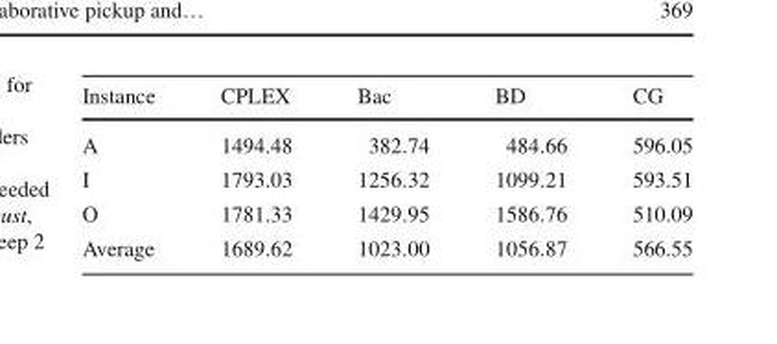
<table><thead><tr><td>Instance</td><td>CPLEX</td><td>Bac</td><td>BD</td><td>CG</td></tr></thead><tbody><tr><td>A</td><td>1494.48</td><td>382.74</td><td>484.66</td><td>596.05</td></tr><tr><td>I</td><td>1793.03</td><td>1256.32</td><td>1099.21</td><td>593.51</td></tr><tr><td>O</td><td>1781.33</td><td>1429.95</td><td>1586.76</td><td>510.09</td></tr><tr><td>Average</td><td>1689.62</td><td>1023.00</td><td>1056.87</td><td>566.55</td></tr></tbody></table>